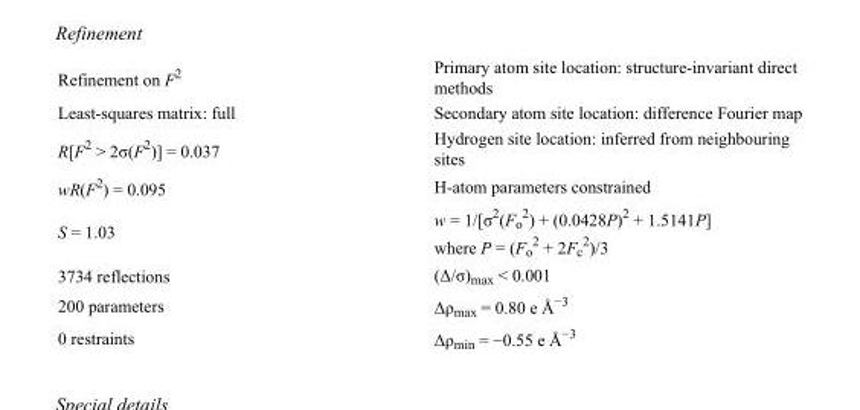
<table><tbody><tr><td>Refinement on F<sup>2</sup></td><td>Primary atom site location: structure-invariant direct methods</td></tr><tr><td>Least-squares matrix: full</td><td>Secondary atom site location: difference Fourier map</td></tr><tr><td>R[F<sup>2</sup> &gt; 2σ(F<sup>2</sup>)] = 0.037</td><td>Hydrogen site location: inferred from neighbouring sites</td></tr><tr><td>wR(F<sup>2</sup>) = 0.095</td><td>H-atom parameters constrained</td></tr><tr><td>S = 1.03</td><td>w = 1/[σ<sup>2</sup>(F<sub>o</sub> <sup>2</sup>) + (0.0428P)<sup>2</sup> + 1.5141P] where P = (F<sub>o</sub> <sup>2</sup> + 2F<sub>c</sub> <sup>2</sup>)/3</td></tr><tr><td>3734 reflections</td><td>(Δ/σ)<sub>max</sub> &lt; 0.001</td></tr><tr><td>200 parameters</td><td>Δρ<sub>max</sub> = 0.80 e Å<sup>−3</sup></td></tr><tr><td>0 restraints</td><td>Δρ<sub>min</sub> = −0.55 e Å<sup>−3</sup></td></tr></tbody></table>